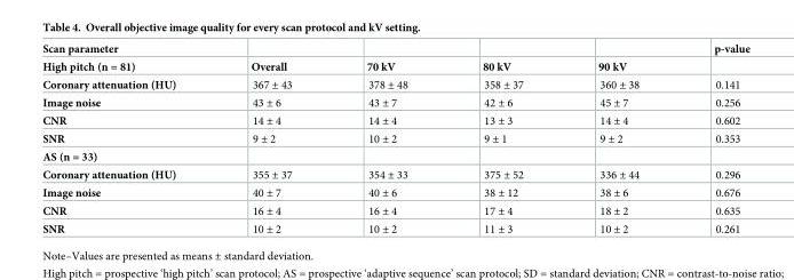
<table><thead><tr><td rowspan="2">Scan parameter High pitch (n = 81)</td><td rowspan="2">Overall</td><td rowspan="2">70 kV</td><td rowspan="2">80 kV</td><td rowspan="2">90 kV</td><td rowspan="2">p-value</td></tr><tr></tr></thead><tbody><tr><td>Coronary attenuation (HU)</td><td>367 ± 43</td><td>378 ± 48</td><td>358 ± 37</td><td>360 ± 38</td><td>0.141</td></tr><tr><td>Image noise</td><td>43 ± 6</td><td>43 ± 7</td><td>42 ± 6</td><td>45 ± 7</td><td>0.256</td></tr><tr><td>CNR</td><td>14 ± 4</td><td>14 ± 4</td><td>13 ± 3</td><td>14 ± 4</td><td>0.602</td></tr><tr><td>SNR</td><td>9 ± 2</td><td>10 ± 2</td><td>9 ± 1</td><td>9 ± 2</td><td>0.353</td></tr><tr><td colspan="6">AS (n = 33)</td></tr><tr><td>Coronary attenuation (HU)</td><td>355 ± 37</td><td>354 ± 33</td><td>375 ± 52</td><td>336 ± 44</td><td>0.296</td></tr><tr><td>Image noise</td><td>40 ± 7</td><td>40 ± 6</td><td>38 ± 12</td><td>38 ± 6</td><td>0.676</td></tr><tr><td>CNR</td><td>16 ± 4</td><td>16 ± 4</td><td>17 ± 4</td><td>18 ± 2</td><td>0.635</td></tr><tr><td>SNR</td><td>10 ± 2</td><td>10 ± 2</td><td>11 ± 3</td><td>10 ± 2</td><td>0.261</td></tr></tbody></table>